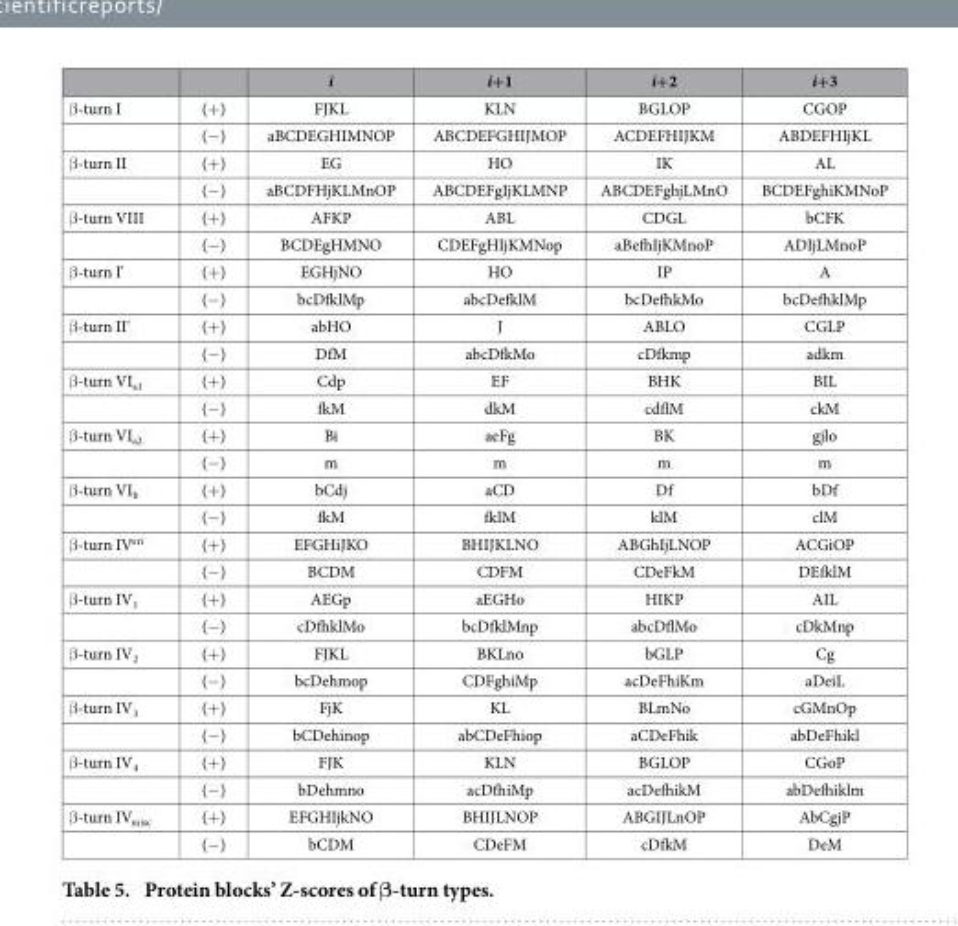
<table><thead><tr><td></td><td></td><td>i</td><td>i+1</td><td>i+2</td><td>i+3</td></tr></thead><tbody><tr><td rowspan="2">β -turn I</td><td>(+ )</td><td>FJKL</td><td>KLN</td><td>BGLOP</td><td>CGOP</td></tr><tr><td>(− )</td><td>aBCDEGHIMNOP</td><td>ABCDEFGHIJMOP</td><td>ACDEFHIJKM</td><td>ABDEFHIjKL</td></tr><tr><td rowspan="2">β -turn II</td><td>(+ )</td><td>EG</td><td>HO</td><td>IK</td><td>AL</td></tr><tr><td>(− )</td><td>aBCDFHjKLMnOP</td><td>ABCDEFgIjKLMNP</td><td>ABCDEFghjLMnO</td><td>BCDEFghiKMNoP</td></tr><tr><td rowspan="2">β -turn VIII</td><td>(+ )</td><td>AFKP</td><td>ABL</td><td>CDGL</td><td>bCFK</td></tr><tr><td>(− )</td><td>BCDEgHMNO</td><td>CDEFgHIjKMNop</td><td>aBefhIjKMnoP</td><td>ADIjLMnoP</td></tr><tr><td rowspan="2">β -turn I&#x27;</td><td>(+ )</td><td>EGHjNO</td><td>HO</td><td>IP</td><td>A</td></tr><tr><td>(− )</td><td>bcDfklMp</td><td>abcDefklM</td><td>bcDefhkMo</td><td>bcDefhklMp</td></tr><tr><td rowspan="2">β -turn II&#x27;</td><td>(+ )</td><td>abHO</td><td>J</td><td>ABLO</td><td>CGLP</td></tr><tr><td>(− )</td><td>DfM</td><td>abcDfkMo</td><td>cDfkmp</td><td>adkm</td></tr><tr><td rowspan="2">β -turn VI<sub>a1</sub></td><td>(+ )</td><td>Cdp</td><td>EF</td><td>BHK</td><td>BIL</td></tr><tr><td>(− )</td><td>fkM</td><td>dkM</td><td>cdflM</td><td>ckM</td></tr><tr><td rowspan="2">β -turn VI<sub>a2</sub></td><td>(+ )</td><td>Bi</td><td>aeFg</td><td>BK</td><td>gjlo</td></tr><tr><td>(− )</td><td>m</td><td>m</td><td>m</td><td>m</td></tr><tr><td rowspan="2">β -turn VI<sub>b</sub></td><td>(+ )</td><td>bCdj</td><td>aCD</td><td>Df</td><td>bDf</td></tr><tr><td>(− )</td><td>fkM</td><td>fklM</td><td>klM</td><td>clM</td></tr><tr><td rowspan="2">β -turn IV<sup>ori</sup></td><td>(+ )</td><td>EFGHiJKO</td><td>BHIJKLNO</td><td>ABGhIjLNOP</td><td>ACGiOP</td></tr><tr><td>(− )</td><td>BCDM</td><td>CDFM</td><td>CDeFkM</td><td>DEfklM</td></tr><tr><td rowspan="2">β -turn IV<sub>1</sub></td><td>(+ )</td><td>AEGp</td><td>aEGHo</td><td>HIKP</td><td>AIL</td></tr><tr><td>(− )</td><td>cDfhklMo</td><td>bcDfklMnp</td><td>abcDflMo</td><td>cDkMnp</td></tr><tr><td rowspan="2">β -turn IV<sub>2</sub></td><td>(+ )</td><td>FJKL</td><td>BKLno</td><td>bGLP</td><td>Cg</td></tr><tr><td>(− )</td><td>bcDehmop</td><td>CDFghiMp</td><td>acDeFhiKm</td><td>aDeiL</td></tr><tr><td rowspan="2">β -turn IV<sub>3</sub></td><td>(+ )</td><td>FjK</td><td>KL</td><td>BLmNo</td><td>cGMnOp</td></tr><tr><td>(− )</td><td>bCDehinop</td><td>abCDeFhiop</td><td>aCDeFhik</td><td>abDeFhikl</td></tr><tr><td rowspan="2">β -turn IV<sub>4</sub></td><td>(+ )</td><td>FJK</td><td>KLN</td><td>BGLOP</td><td>CGoP</td></tr><tr><td>(− )</td><td>bDehmno</td><td>acDfhiMp</td><td>acDefhikM</td><td>abDefhiklm</td></tr><tr><td rowspan="2">β -turn IV<sub>misc</sub></td><td>(+ )</td><td>EFGHIjkNO</td><td>BHIJLNOP</td><td>ABGIJLnOP</td><td>AbCgjP</td></tr><tr><td>(− )</td><td>bCDM</td><td>CDeFM</td><td>cDfkM</td><td>DeM</td></tr></tbody></table>